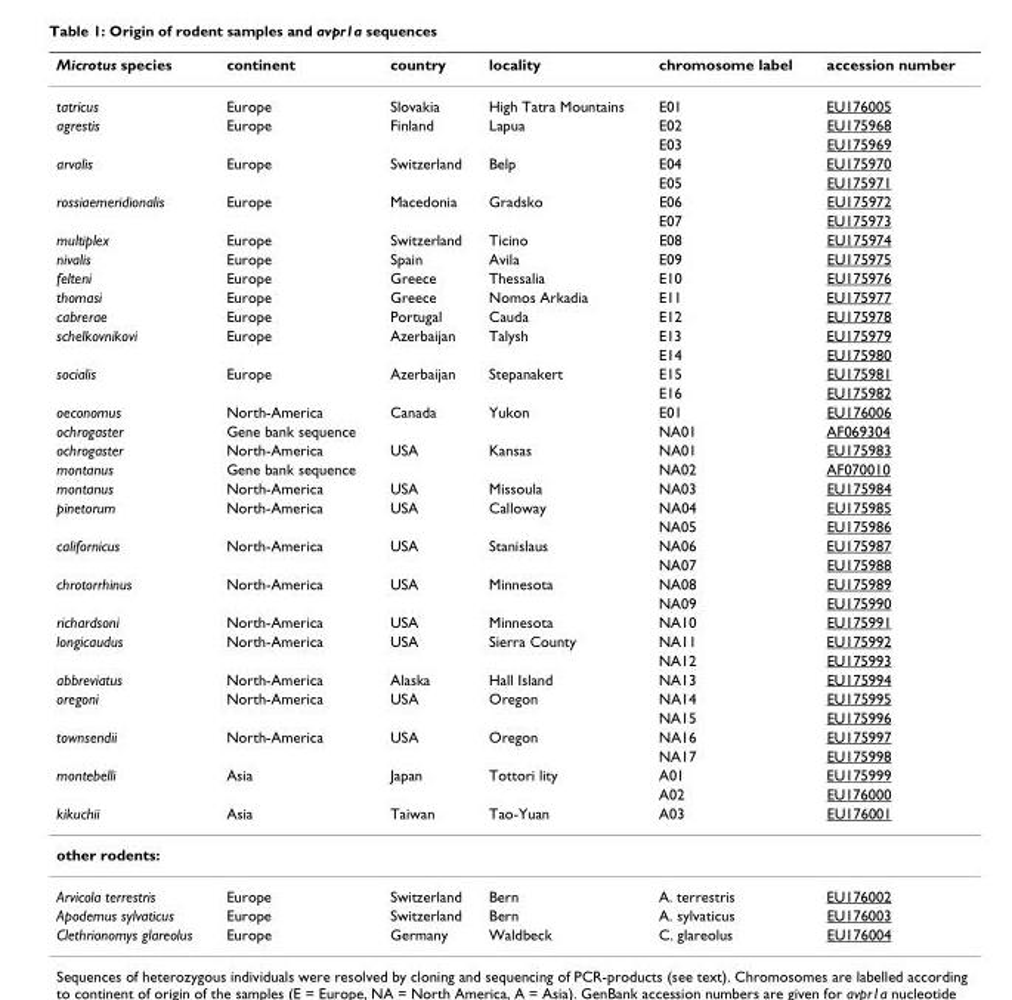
<table><thead><tr><td>Microtus species</td><td>continent</td><td>country</td><td>locality</td><td>chromosome label</td><td>accession number</td></tr></thead><tbody><tr><td>tatricus</td><td>Europe</td><td>Slovakia</td><td>High Tatra Mountains</td><td>E01</td><td>EU176005</td></tr><tr><td rowspan="2">agrestis</td><td>Europe</td><td>Finland</td><td>Lapua</td><td>E02</td><td>EU175968</td></tr><tr><td></td><td></td><td></td><td>E03</td><td>EU175969</td></tr><tr><td rowspan="2">arvalis</td><td>Europe</td><td>Switzerland</td><td>Belp</td><td>E04</td><td>EU175970</td></tr><tr><td></td><td></td><td></td><td>E05</td><td>EU175971</td></tr><tr><td rowspan="2">rossiaemeridionalis</td><td>Europe</td><td>Macedonia</td><td>Gradsko</td><td>E06</td><td>EU175972</td></tr><tr><td></td><td></td><td></td><td>E07</td><td>EU175973</td></tr><tr><td>multiplex</td><td>Europe</td><td>Switzerland</td><td>Ticino</td><td>E08</td><td>EU175974</td></tr><tr><td>nivalis</td><td>Europe</td><td>Spain</td><td>Avila</td><td>E09</td><td>EU175975</td></tr><tr><td>felteni</td><td>Europe</td><td>Greece</td><td>Thessalia</td><td>E10</td><td>EU175976</td></tr><tr><td>thomasi</td><td>Europe</td><td>Greece</td><td>Nomos Arkadia</td><td>E11</td><td>EU175977</td></tr><tr><td>cabrerae</td><td>Europe</td><td>Portugal</td><td>Cauda</td><td>E12</td><td>EU175978</td></tr><tr><td rowspan="2">schelkovnikovi</td><td>Europe</td><td>Azerbaijan</td><td>Talysh</td><td>E13</td><td>EU175979</td></tr><tr><td></td><td></td><td></td><td>E14</td><td>EU175980</td></tr><tr><td rowspan="2">socialis</td><td>Europe</td><td>Azerbaijan</td><td>Stepanakert</td><td>E15</td><td>EU175981</td></tr><tr><td></td><td></td><td></td><td>E16</td><td>EU175982</td></tr><tr><td>oeconomus</td><td>North-America</td><td>Canada</td><td>Yukon</td><td>E01</td><td>EU176006</td></tr><tr><td>ochrogaster</td><td>Gene bank sequence</td><td></td><td></td><td>NA01</td><td>AF069304</td></tr><tr><td>ochrogaster</td><td>North-America</td><td>USA</td><td>Kansas</td><td>NA01</td><td>EU175983</td></tr><tr><td>montanus</td><td>Gene bank sequence</td><td></td><td></td><td>NA02</td><td>AF070010</td></tr><tr><td>montanus</td><td>North-America</td><td>USA</td><td>Missoula</td><td>NA03</td><td>EU175984</td></tr><tr><td rowspan="2">pinetorum</td><td>North-America</td><td>USA</td><td>Calloway</td><td>NA04</td><td>EU175985</td></tr><tr><td></td><td></td><td></td><td>NA05</td><td>EU175986</td></tr><tr><td rowspan="2">californicus</td><td>North-America</td><td>USA</td><td>Stanislaus</td><td>NA06</td><td>EU175987</td></tr><tr><td></td><td></td><td></td><td>NA07</td><td>EU175988</td></tr><tr><td rowspan="2">chrotorrhinus</td><td>North-America</td><td>USA</td><td>Minnesota</td><td>NA08</td><td>EU175989</td></tr><tr><td></td><td></td><td></td><td>NA09</td><td>EU175990</td></tr><tr><td>richardsoni</td><td>North-America</td><td>USA</td><td>Minnesota</td><td>NA10</td><td>EU175991</td></tr><tr><td rowspan="2">longicaudus</td><td>North-America</td><td>USA</td><td>Sierra County</td><td>NA11</td><td>EU175992</td></tr><tr><td></td><td></td><td></td><td>NA12</td><td>EU175993</td></tr><tr><td>abbreviatus</td><td>North-America</td><td>Alaska</td><td>Hall Island</td><td>NA13</td><td>EU175994</td></tr><tr><td rowspan="2">oregoni</td><td>North-America</td><td>USA</td><td>Oregon</td><td>NA14</td><td>EU175995</td></tr><tr><td></td><td></td><td></td><td>NA15</td><td>EU175996</td></tr><tr><td rowspan="2">townsendii</td><td>North-America</td><td>USA</td><td>Oregon</td><td>NA16</td><td>EU175997</td></tr><tr><td></td><td></td><td></td><td>NA17</td><td>EU175998</td></tr><tr><td rowspan="2">montebelli</td><td>Asia</td><td>Japan</td><td>Tottori lity</td><td>A01</td><td>EU175999</td></tr><tr><td></td><td></td><td></td><td>A02</td><td>EU176000</td></tr><tr><td>kikuchii</td><td>Asia</td><td>Taiwan</td><td>Tao-Yuan</td><td>A03</td><td>EU176001</td></tr><tr><td colspan="6">other rodents:</td></tr><tr><td>Arvicola terrestris</td><td>Europe</td><td>Switzerland</td><td>Bern</td><td>A. terrestris</td><td>EU176002</td></tr><tr><td>Apodemus sylvaticus</td><td>Europe</td><td>Switzerland</td><td>Bern</td><td>A. sylvaticus</td><td>EU176003</td></tr><tr><td>Clethrionomys glareolus</td><td>Europe</td><td>Germany</td><td>Waldbeck</td><td>C. glareolus</td><td>EU176004</td></tr></tbody></table>